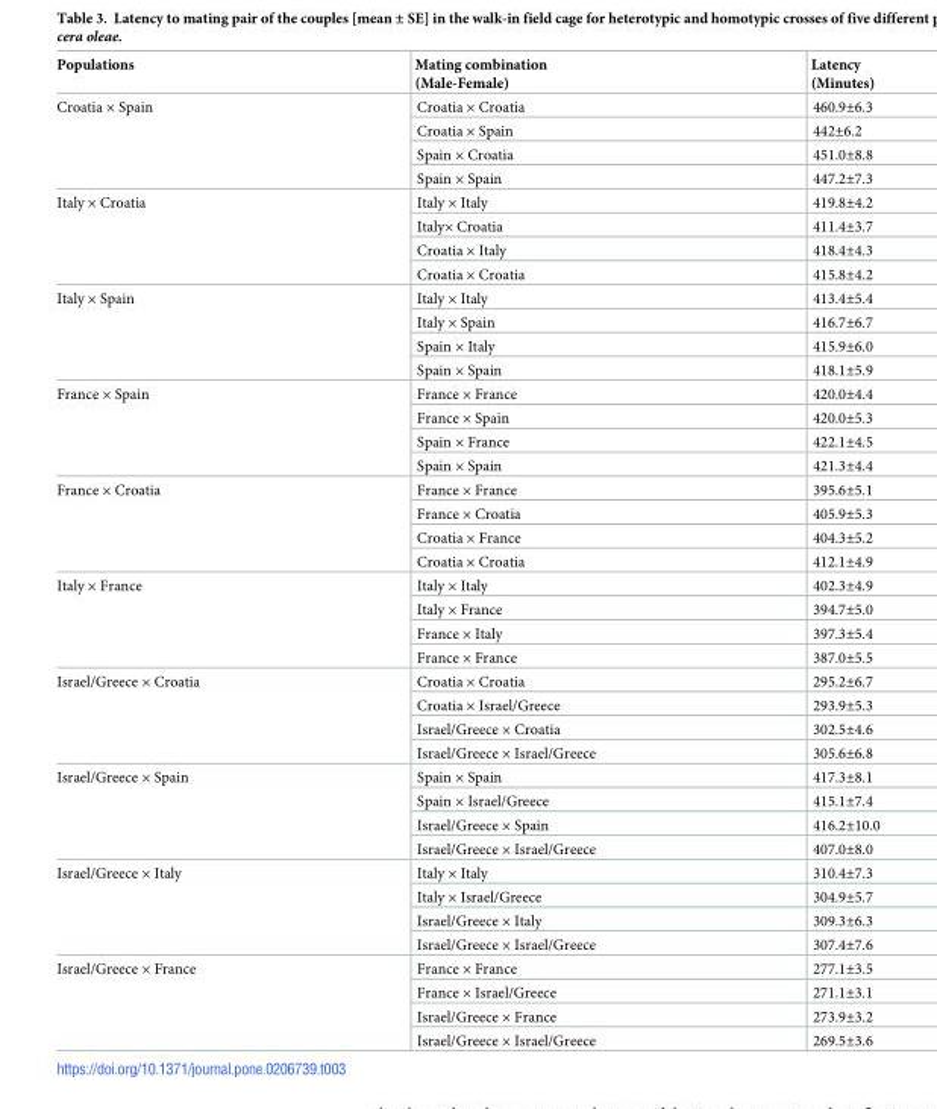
<table><thead><tr><td>Populations</td><td>Mating combination (Male-Female)</td><td>Latency (Minutes)</td></tr></thead><tbody><tr><td rowspan="4">Croatia × Spain</td><td>Croatia × Croatia</td><td>460.9±6.3</td></tr><tr><td>Croatia × Spain</td><td>442±6.2</td></tr><tr><td>Spain × Croatia</td><td>451.0±8.8</td></tr><tr><td>Spain × Spain</td><td>447.2±7.3</td></tr><tr><td rowspan="4">Italy × Croatia</td><td>Italy × Italy</td><td>419.8±4.2</td></tr><tr><td>Italy× Croatia</td><td>411.4±3.7</td></tr><tr><td>Croatia × Italy</td><td>418.4±4.3</td></tr><tr><td>Croatia × Croatia</td><td>415.8±4.2</td></tr><tr><td rowspan="4">Italy × Spain</td><td>Italy × Italy</td><td>413.4±5.4</td></tr><tr><td>Italy × Spain</td><td>416.7±6.7</td></tr><tr><td>Spain × Italy</td><td>415.9±6.0</td></tr><tr><td>Spain × Spain</td><td>418.1±5.9</td></tr><tr><td rowspan="4">France × Spain</td><td>France × France</td><td>420.0±4.4</td></tr><tr><td>France × Spain</td><td>420.0±5.3</td></tr><tr><td>Spain × France</td><td>422.1±4.5</td></tr><tr><td>Spain × Spain</td><td>421.3±4.4</td></tr><tr><td rowspan="4">France × Croatia</td><td>France × France</td><td>395.6±5.1</td></tr><tr><td>France × Croatia</td><td>405.9±5.3</td></tr><tr><td>Croatia × France</td><td>404.3±5.2</td></tr><tr><td>Croatia × Croatia</td><td>412.1±4.9</td></tr><tr><td rowspan="4">Italy × France</td><td>Italy × Italy</td><td>402.3±4.9</td></tr><tr><td>Italy × France</td><td>394.7±5.0</td></tr><tr><td>France × Italy</td><td>397.3±5.4</td></tr><tr><td>France × France</td><td>387.0±5.5</td></tr><tr><td rowspan="4">Israel/Greece × Croatia</td><td>Croatia × Croatia</td><td>295.2±6.7</td></tr><tr><td>Croatia × Israel/Greece</td><td>293.9±5.3</td></tr><tr><td>Israel/Greece × Croatia</td><td>302.5±4.6</td></tr><tr><td>Israel/Greece × Israel/Greece</td><td>305.6±6.8</td></tr><tr><td rowspan="4">Israel/Greece × Spain</td><td>Spain × Spain</td><td>417.3±8.1</td></tr><tr><td>Spain × Israel/Greece</td><td>415.1±7.4</td></tr><tr><td>Israel/Greece × Spain</td><td>416.2±10.0</td></tr><tr><td>Israel/Greece × Israel/Greece</td><td>407.0±8.0</td></tr><tr><td rowspan="4">Israel/Greece × Italy</td><td>Italy × Italy</td><td>310.4±7.3</td></tr><tr><td>Italy × Israel/Greece</td><td>304.9±5.7</td></tr><tr><td>Israel/Greece × Italy</td><td>309.3±6.3</td></tr><tr><td>Israel/Greece × Israel/Greece</td><td>307.4±7.6</td></tr><tr><td rowspan="4">Israel/Greece × France</td><td>France × France</td><td>277.1±3.5</td></tr><tr><td>France × Israel/Greece</td><td>271.1±3.1</td></tr><tr><td>Israel/Greece × France</td><td>273.9±3.2</td></tr><tr><td>Israel/Greece × Israel/Greece</td><td>269.5±3.6</td></tr></tbody></table>